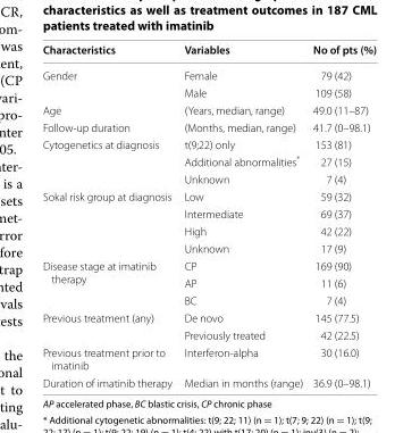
<table><thead><tr><td>Characteristics</td><td>Variables</td><td>No of pts (%)</td></tr></thead><tbody><tr><td rowspan="2">Gender</td><td>Female</td><td>79 (42)</td></tr><tr><td>Male</td><td>109 (58)</td></tr><tr><td>Age</td><td>(Years, median, range)</td><td>49.0 (11–87)</td></tr><tr><td>Follow‑up duration</td><td>(Months, median, range)</td><td>41.7 (0–98.1)</td></tr><tr><td rowspan="3">Cytogenetics at diagnosis</td><td>t(9;22) only</td><td>153 (81)</td></tr><tr><td>Additional abnormalities*</td><td>27 (15)</td></tr><tr><td>Unknown</td><td>7 (4)</td></tr><tr><td rowspan="4">Sokal risk group at diagnosis</td><td>Low</td><td>59 (32)</td></tr><tr><td>Intermediate</td><td>69 (37)</td></tr><tr><td>High</td><td>42 (22)</td></tr><tr><td>Unknown</td><td>17 (9)</td></tr><tr><td rowspan="3">Disease stage at imatinib therapy</td><td>CP</td><td>169 (90)</td></tr><tr><td>AP</td><td>11 (6)</td></tr><tr><td>BC</td><td>7 (4)</td></tr><tr><td rowspan="2">Previous treatment (any)</td><td>De novo</td><td>145 (77.5)</td></tr><tr><td>Previously treated</td><td>42 (22.5)</td></tr><tr><td>Previous treatment prior to imatinib</td><td>Interferon‑alpha</td><td>30 (16.0)</td></tr><tr><td>Duration of imatinib therapy</td><td>Median in months (range)</td><td>36.9 (0–98.1)</td></tr></tbody></table>